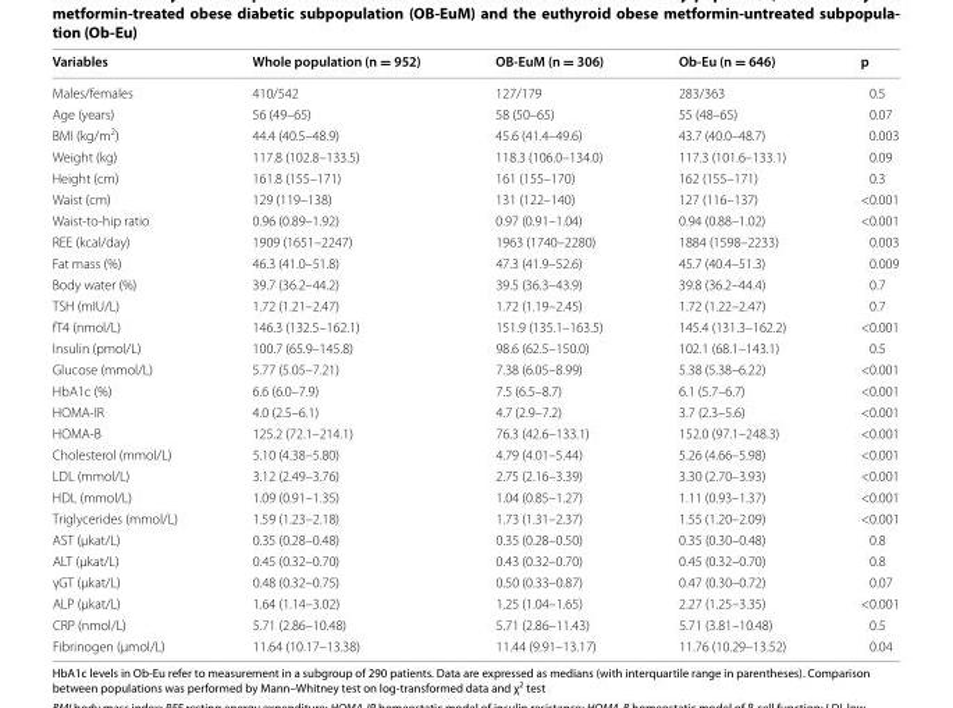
<table><thead><tr><td>Variables</td><td>Whole population (n = 952)</td><td>OB-EuM (n = 306)</td><td>Ob-Eu (n = 646)</td><td>p</td></tr></thead><tbody><tr><td>Males/females</td><td>410/542</td><td>127/179</td><td>283/363</td><td>0.5</td></tr><tr><td>Age (years)</td><td>56 (49–65)</td><td>58 (50–65)</td><td>55 (48–65)</td><td>0.07</td></tr><tr><td>BMI (kg/m<sup>2</sup>)</td><td>44.4 (40.5–48.9)</td><td>45.6 (41.4–49.6)</td><td>43.7 (40.0–48.7)</td><td>0.003</td></tr><tr><td>Weight (kg)</td><td>117.8 (102.8–133.5)</td><td>118.3 (106.0–134.0)</td><td>117.3 (101.6–133.1)</td><td>0.09</td></tr><tr><td>Height (cm)</td><td>161.8 (155–171)</td><td>161 (155–170)</td><td>162 (155–171)</td><td>0.3</td></tr><tr><td>Waist (cm)</td><td>129 (119–138)</td><td>131 (122–140)</td><td>127 (116–137)</td><td>&lt;0.001</td></tr><tr><td>Waist-to-hip ratio</td><td>0.96 (0.89–1.92)</td><td>0.97 (0.91–1.04)</td><td>0.94 (0.88–1.02)</td><td>&lt;0.001</td></tr><tr><td>REE (kcal/day)</td><td>1909 (1651–2247)</td><td>1963 (1740–2280)</td><td>1884 (1598–2233)</td><td>0.003</td></tr><tr><td>Fat mass (%)</td><td>46.3 (41.0–51.8)</td><td>47.3 (41.9–52.6)</td><td>45.7 (40.4–51.3)</td><td>0.009</td></tr><tr><td>Body water (%)</td><td>39.7 (36.2–44.2)</td><td>39.5 (36.3–43.9)</td><td>39.8 (36.2–44.4)</td><td>0.7</td></tr><tr><td>TSH (mIU/L)</td><td>1.72 (1.21–2.47)</td><td>1.72 (1.19–2.45)</td><td>1.72 (1.22–2.47)</td><td>0.7</td></tr><tr><td>fT4 (nmol/L)</td><td>146.3 (132.5–162.1)</td><td>151.9 (135.1–163.5)</td><td>145.4 (131.3–162.2)</td><td>&lt;0.001</td></tr><tr><td>Insulin (pmol/L)</td><td>100.7 (65.9–145.8)</td><td>98.6 (62.5–150.0)</td><td>102.1 (68.1–143.1)</td><td>0.5</td></tr><tr><td>Glucose (mmol/L)</td><td>5.77 (5.05–7.21)</td><td>7.38 (6.05–8.99)</td><td>5.38 (5.38–6.22)</td><td>&lt;0.001</td></tr><tr><td>HbA1c (%)</td><td>6.6 (6.0–7.9)</td><td>7.5 (6.5–8.7)</td><td>6.1 (5.7–6.7)</td><td>&lt;0.001</td></tr><tr><td>HOMA-IR</td><td>4.0 (2.5–6.1)</td><td>4.7 (2.9–7.2)</td><td>3.7 (2.3–5.6)</td><td>&lt;0.001</td></tr><tr><td>HOMA-B</td><td>125.2 (72.1–214.1)</td><td>76.3 (42.6–133.1)</td><td>152.0 (97.1–248.3)</td><td>&lt;0.001</td></tr><tr><td>Cholesterol (mmol/L)</td><td>5.10 (4.38–5.80)</td><td>4.79 (4.01–5.44)</td><td>5.26 (4.66–5.98)</td><td>&lt;0.001</td></tr><tr><td>LDL (mmol/L)</td><td>3.12 (2.49–3.76)</td><td>2.75 (2.16–3.39)</td><td>3.30 (2.70–3.93)</td><td>&lt;0.001</td></tr><tr><td>HDL (mmol/L)</td><td>1.09 (0.91–1.35)</td><td>1.04 (0.85–1.27)</td><td>1.11 (0.93–1.37)</td><td>&lt;0.001</td></tr><tr><td>Triglycerides (mmol/L)</td><td>1.59 (1.23–2.18)</td><td>1.73 (1.31–2.37)</td><td>1.55 (1.20–2.09)</td><td>&lt;0.001</td></tr><tr><td>AST (μkat/L)</td><td>0.35 (0.28–0.48)</td><td>0.35 (0.28–0.50)</td><td>0.35 (0.30–0.48)</td><td>0.8</td></tr><tr><td>ALT (μkat/L)</td><td>0.45 (0.32–0.70)</td><td>0.43 (0.32–0.70)</td><td>0.45 (0.32–0.70)</td><td>0.8</td></tr><tr><td>γGT (μkat/L)</td><td>0.48 (0.32–0.75)</td><td>0.50 (0.33–0.87)</td><td>0.47 (0.30–0.72)</td><td>0.07</td></tr><tr><td>ALP (μkat/L)</td><td>1.64 (1.14–3.02)</td><td>1.25 (1.04–1.65)</td><td>2.27 (1.25–3.35)</td><td>&lt;0.001</td></tr><tr><td>CRP (nmol/L)</td><td>5.71 (2.86–10.48)</td><td>5.71 (2.86–11.43)</td><td>5.71 (3.81–10.48)</td><td>0.5</td></tr><tr><td>Fibrinogen (μmol/L)</td><td>11.64 (10.17–13.38)</td><td>11.44 (9.91–13.17)</td><td>11.76 (10.29–13.52)</td><td>0.04</td></tr></tbody></table>